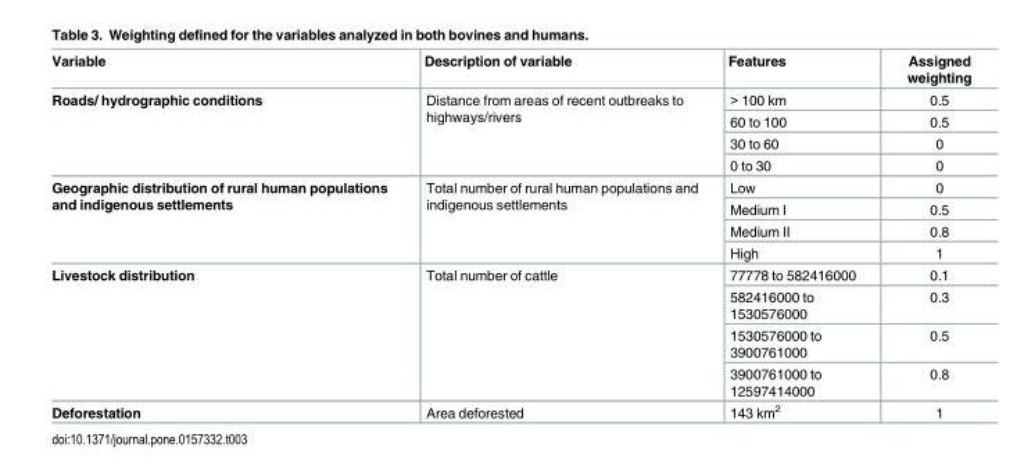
<table><thead><tr><td>Variable</td><td>Description of variable</td><td>Features</td><td>Assigned weighting</td></tr></thead><tbody><tr><td rowspan="4">Roads/ hydrographic conditions</td><td rowspan="4">Distance from areas of recent outbreaks to highways/rivers</td><td>&gt; 100 km</td><td>0.5</td></tr><tr><td>60 to 100</td><td>0.5</td></tr><tr><td>30 to 60</td><td>0</td></tr><tr><td>0 to 30</td><td>0</td></tr><tr><td rowspan="4">Geographic distribution of rural human populations and indigenous settlements</td><td rowspan="4">Total number of rural human populations and indigenous settlements</td><td>Low</td><td>0</td></tr><tr><td>Medium I</td><td>0.5</td></tr><tr><td>Medium II</td><td>0.8</td></tr><tr><td>High</td><td>1</td></tr><tr><td rowspan="4">Livestock distribution</td><td rowspan="4">Total number of cattle</td><td>77778 to 582416000</td><td>0.1</td></tr><tr><td>582416000 to 1530576000</td><td>0.3</td></tr><tr><td>1530576000 to 3900761000</td><td>0.5</td></tr><tr><td>3900761000 to 12597414000</td><td>0.8</td></tr><tr><td>Deforestation</td><td>Area deforested</td><td>143 km<sup>2</sup></td><td>1</td></tr></tbody></table>